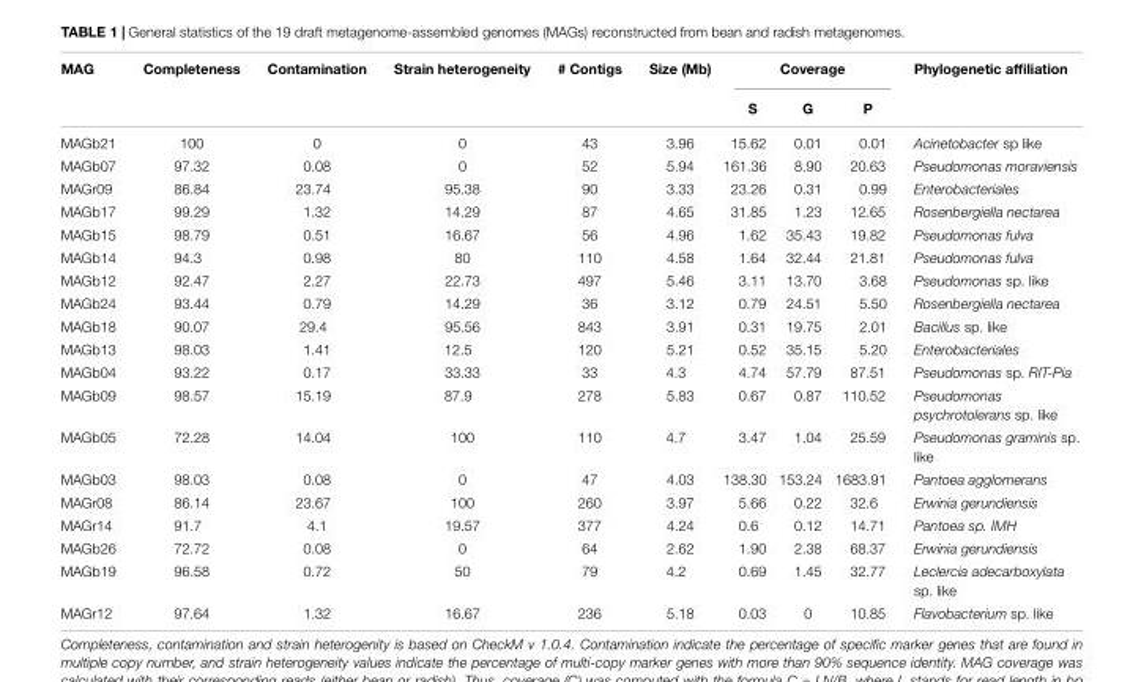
<table><thead><tr><td rowspan="2">MAG</td><td rowspan="2">Completeness</td><td rowspan="2">Contamination</td><td rowspan="2">Strain heterogeneity</td><td rowspan="2"># Contigs</td><td rowspan="2">Size (Mb)</td><td colspan="3">Coverage</td><td rowspan="2">Phylogenetic affiliation</td></tr><tr><td>S</td><td>G</td><td>P</td></tr></thead><tbody><tr><td>MAGb21</td><td>100</td><td>0</td><td>0</td><td>43</td><td>3.96</td><td>15.62</td><td>0.01</td><td>0.01</td><td>Acinetobacter sp like</td></tr><tr><td>MAGb07</td><td>97.32</td><td>0.08</td><td>0</td><td>52</td><td>5.94</td><td>161.36</td><td>8.90</td><td>20.63</td><td>Pseudomonas moraviensis</td></tr><tr><td>MAGr09</td><td>86.84</td><td>23.74</td><td>95.38</td><td>90</td><td>3.33</td><td>23.26</td><td>0.31</td><td>0.99</td><td>Enterobacteriales</td></tr><tr><td>MAGb17</td><td>99.29</td><td>1.32</td><td>14.29</td><td>87</td><td>4.65</td><td>31.85</td><td>1.23</td><td>12.65</td><td>Rosenbergiella nectarea</td></tr><tr><td>MAGb15</td><td>98.79</td><td>0.51</td><td>16.67</td><td>56</td><td>4.96</td><td>1.62</td><td>35.43</td><td>19.82</td><td>Pseudomonas fulva</td></tr><tr><td>MAGb14</td><td>94.3</td><td>0.98</td><td>80</td><td>110</td><td>4.58</td><td>1.64</td><td>32.44</td><td>21.81</td><td>Pseudomonas fulva</td></tr><tr><td>MAGb12</td><td>92.47</td><td>2.27</td><td>22.73</td><td>497</td><td>5.46</td><td>3.11</td><td>13.70</td><td>3.68</td><td>Pseudomonas sp. like</td></tr><tr><td>MAGb24</td><td>93.44</td><td>0.79</td><td>14.29</td><td>36</td><td>3.12</td><td>0.79</td><td>24.51</td><td>5.50</td><td>Rosenbergiella nectarea</td></tr><tr><td>MAGb18</td><td>90.07</td><td>29.4</td><td>95.56</td><td>843</td><td>3.91</td><td>0.31</td><td>19.75</td><td>2.01</td><td>Bacillus sp. like</td></tr><tr><td>MAGb13</td><td>98.03</td><td>1.41</td><td>12.5</td><td>120</td><td>5.21</td><td>0.52</td><td>35.15</td><td>5.20</td><td>Enterobacteriales</td></tr><tr><td>MAGb04</td><td>93.22</td><td>0.17</td><td>33.33</td><td>33</td><td>4.3</td><td>4.74</td><td>57.79</td><td>87.51</td><td>Pseudomonas sp. RIT-Pia</td></tr><tr><td>MAGb09</td><td>98.57</td><td>15.19</td><td>87.9</td><td>278</td><td>5.83</td><td>0.67</td><td>0.87</td><td>110.52</td><td>Pseudomonas psychrotolerans sp. like</td></tr><tr><td>MAGb05</td><td>72.28</td><td>14.04</td><td>100</td><td>110</td><td>4.7</td><td>3.47</td><td>1.04</td><td>25.59</td><td>Pseudomonas graminis sp. like</td></tr><tr><td>MAGb03</td><td>98.03</td><td>0.08</td><td>0</td><td>47</td><td>4.03</td><td>138.30</td><td>153.24</td><td>1683.91</td><td>Pantoea agglomerans</td></tr><tr><td>MAGr08</td><td>86.14</td><td>23.67</td><td>100</td><td>260</td><td>3.97</td><td>5.66</td><td>0.22</td><td>32.6</td><td>Erwinia gerundiensis</td></tr><tr><td>MAGr14</td><td>91.7</td><td>4.1</td><td>19.57</td><td>377</td><td>4.24</td><td>0.6</td><td>0.12</td><td>14.71</td><td>Pantoea sp. IMH</td></tr><tr><td>MAGb26</td><td>72.72</td><td>0.08</td><td>0</td><td>64</td><td>2.62</td><td>1.90</td><td>2.38</td><td>68.37</td><td>Erwinia gerundiensis</td></tr><tr><td>MAGb19</td><td>96.58</td><td>0.72</td><td>50</td><td>79</td><td>4.2</td><td>0.69</td><td>1.45</td><td>32.77</td><td>Leclercia adecarboxylata sp. like</td></tr><tr><td>MAGr12</td><td>97.64</td><td>1.32</td><td>16.67</td><td>236</td><td>5.18</td><td>0.03</td><td>0</td><td>10.85</td><td>Flavobacterium sp. like</td></tr></tbody></table>